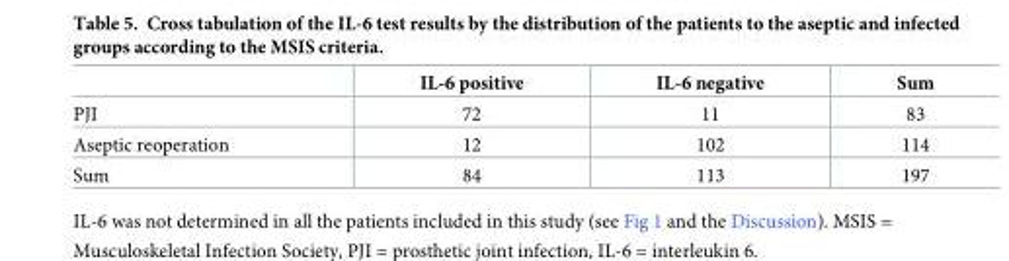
<table><thead><tr><td></td><td>IL-6 positive</td><td>IL-6 negative</td><td>Sum</td></tr></thead><tbody><tr><td>PJI</td><td>72</td><td>11</td><td>83</td></tr><tr><td>Aseptic reoperation</td><td>12</td><td>102</td><td>114</td></tr><tr><td>Sum</td><td>84</td><td>113</td><td>197</td></tr></tbody></table>